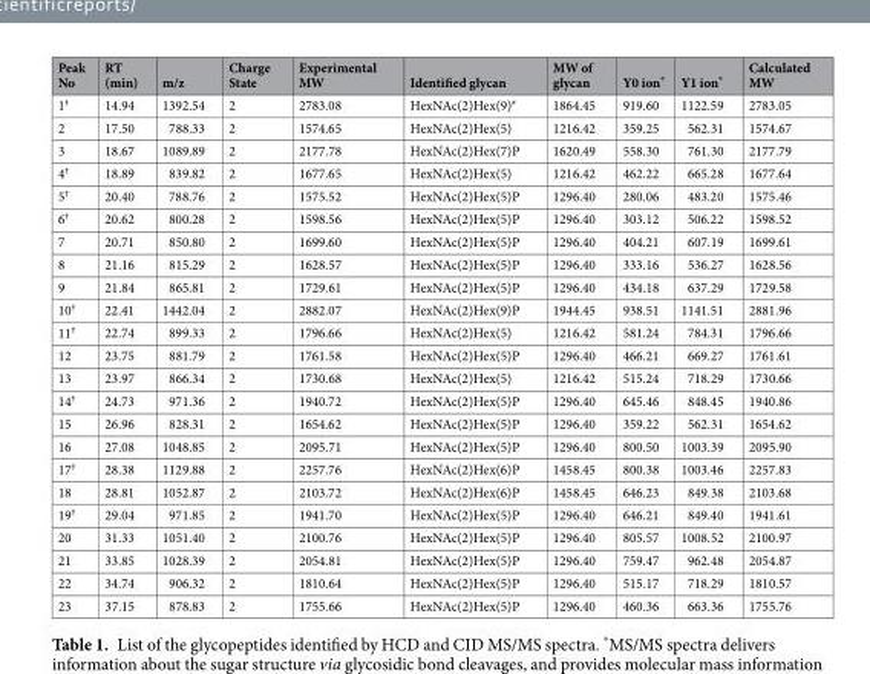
<table><thead><tr><td>Peak No</td><td>RT (min)</td><td>m/z</td><td>Charge State</td><td>Experimental MW</td><td>Identified glycan</td><td>MW of glycan</td><td>Y0 ion*</td><td>Y1 ion*</td><td>Calculated MW</td></tr></thead><tbody><tr><td>1<sup>†</sup></td><td>14.94</td><td>1392.54</td><td>2</td><td>2783.08</td><td>HexNAc(2)Hex(9)<sup>#</sup></td><td>1864.45</td><td>919.60</td><td>1122.59</td><td>2783.05</td></tr><tr><td>2</td><td>17.50</td><td>788.33</td><td>2</td><td>1574.65</td><td>HexNAc(2)Hex(5)</td><td>1216.42</td><td>359.25</td><td>562.31</td><td>1574.67</td></tr><tr><td>3</td><td>18.67</td><td>1089.89</td><td>2</td><td>2177.78</td><td>HexNAc(2)Hex(7)P</td><td>1620.49</td><td>558.30</td><td>761.30</td><td>2177.79</td></tr><tr><td>4<sup>†</sup></td><td>18.89</td><td>839.82</td><td>2</td><td>1677.65</td><td>HexNAc(2)Hex(5)</td><td>1216.42</td><td>462.22</td><td>665.28</td><td>1677.64</td></tr><tr><td>5<sup>†</sup></td><td>20.40</td><td>788.76</td><td>2</td><td>1575.52</td><td>HexNAc(2)Hex(5)P</td><td>1296.40</td><td>280.06</td><td>483.20</td><td>1575.46</td></tr><tr><td>6<sup>†</sup></td><td>20.62</td><td>800.28</td><td>2</td><td>1598.56</td><td>HexNAc(2)Hex(5)P</td><td>1296.40</td><td>303.12</td><td>506.22</td><td>1598.52</td></tr><tr><td>7</td><td>20.71</td><td>850.80</td><td>2</td><td>1699.60</td><td>HexNAc(2)Hex(5)P</td><td>1296.40</td><td>404.21</td><td>607.19</td><td>1699.61</td></tr><tr><td>8</td><td>21.16</td><td>815.29</td><td>2</td><td>1628.57</td><td>HexNAc(2)Hex(5)P</td><td>1296.40</td><td>333.16</td><td>536.27</td><td>1628.56</td></tr><tr><td>9</td><td>21.84</td><td>865.81</td><td>2</td><td>1729.61</td><td>HexNAc(2)Hex(5)P</td><td>1296.40</td><td>434.18</td><td>637.29</td><td>1729.58</td></tr><tr><td>10<sup>†</sup></td><td>22.41</td><td>1442.04</td><td>2</td><td>2882.07</td><td>HexNAc(2)Hex(9)P</td><td>1944.45</td><td>938.51</td><td>1141.51</td><td>2881.96</td></tr><tr><td>11<sup>†</sup></td><td>22.74</td><td>899.33</td><td>2</td><td>1796.66</td><td>HexNAc(2)Hex(5)</td><td>1216.42</td><td>581.24</td><td>784.31</td><td>1796.66</td></tr><tr><td>12</td><td>23.75</td><td>881.79</td><td>2</td><td>1761.58</td><td>HexNAc(2)Hex(5)P</td><td>1296.40</td><td>466.21</td><td>669.27</td><td>1761.61</td></tr><tr><td>13</td><td>23.97</td><td>866.34</td><td>2</td><td>1730.68</td><td>HexNAc(2)Hex(5)</td><td>1216.42</td><td>515.24</td><td>718.29</td><td>1730.66</td></tr><tr><td>14<sup>†</sup></td><td>24.73</td><td>971.36</td><td>2</td><td>1940.72</td><td>HexNAc(2)Hex(5)P</td><td>1296.40</td><td>645.46</td><td>848.45</td><td>1940.86</td></tr><tr><td>15</td><td>26.96</td><td>828.31</td><td>2</td><td>1654.62</td><td>HexNAc(2)Hex(5)P</td><td>1296.40</td><td>359.22</td><td>562.31</td><td>1654.62</td></tr><tr><td>16</td><td>27.08</td><td>1048.85</td><td>2</td><td>2095.71</td><td>HexNAc(2)Hex(5)P</td><td>1296.40</td><td>800.50</td><td>1003.39</td><td>2095.90</td></tr><tr><td>17<sup>†</sup></td><td>28.38</td><td>1129.88</td><td>2</td><td>2257.76</td><td>HexNAc(2)Hex(6)P</td><td>1458.45</td><td>800.38</td><td>1003.46</td><td>2257.83</td></tr><tr><td>18</td><td>28.81</td><td>1052.87</td><td>2</td><td>2103.72</td><td>HexNAc(2)Hex(6)P</td><td>1458.45</td><td>646.23</td><td>849.38</td><td>2103.68</td></tr><tr><td>19<sup>†</sup></td><td>29.04</td><td>971.85</td><td>2</td><td>1941.70</td><td>HexNAc(2)Hex(5)P</td><td>1296.40</td><td>646.21</td><td>849.40</td><td>1941.61</td></tr><tr><td>20</td><td>31.33</td><td>1051.40</td><td>2</td><td>2100.76</td><td>HexNAc(2)Hex(5)P</td><td>1296.40</td><td>805.57</td><td>1008.52</td><td>2100.97</td></tr><tr><td>21</td><td>33.85</td><td>1028.39</td><td>2</td><td>2054.81</td><td>HexNAc(2)Hex(5)P</td><td>1296.40</td><td>759.47</td><td>962.48</td><td>2054.87</td></tr><tr><td>22</td><td>34.74</td><td>906.32</td><td>2</td><td>1810.64</td><td>HexNAc(2)Hex(5)P</td><td>1296.40</td><td>515.17</td><td>718.29</td><td>1810.57</td></tr><tr><td>23</td><td>37.15</td><td>878.83</td><td>2</td><td>1755.66</td><td>HexNAc(2)Hex(5)P</td><td>1296.40</td><td>460.36</td><td>663.36</td><td>1755.76</td></tr></tbody></table>